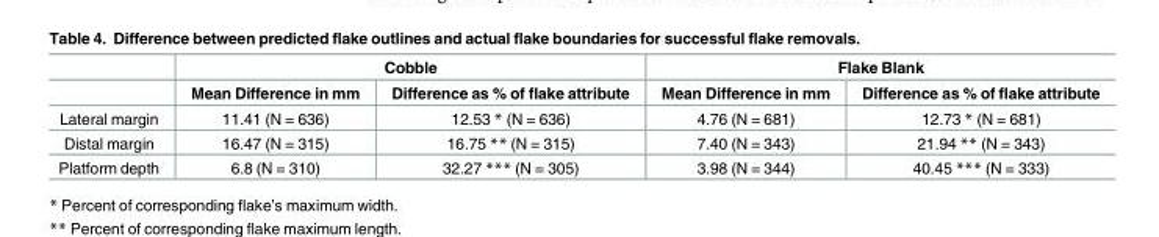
<table><thead><tr><td rowspan="2"></td><td colspan="2">Cobble</td><td colspan="2">Flake Blank</td></tr><tr><td>Mean Difference in mm</td><td>Difference as % of flake attribute</td><td>Mean Difference in mm</td><td>Difference as % of flake attribute</td></tr></thead><tbody><tr><td>Lateral margin</td><td>11.41 (N = 636)</td><td>12.53 * (N = 636)</td><td>4.76 (N = 681)</td><td>12.73 * (N = 681)</td></tr><tr><td>Distal margin</td><td>16.47 (N = 315)</td><td>16.75 ** (N = 315)</td><td>7.40 (N = 343)</td><td>21.94 ** (N = 343)</td></tr><tr><td>Platform depth</td><td>6.8 (N = 310)</td><td>32.27 *** (N = 305)</td><td>3.98 (N = 344)</td><td>40.45 *** (N = 333)</td></tr></tbody></table>